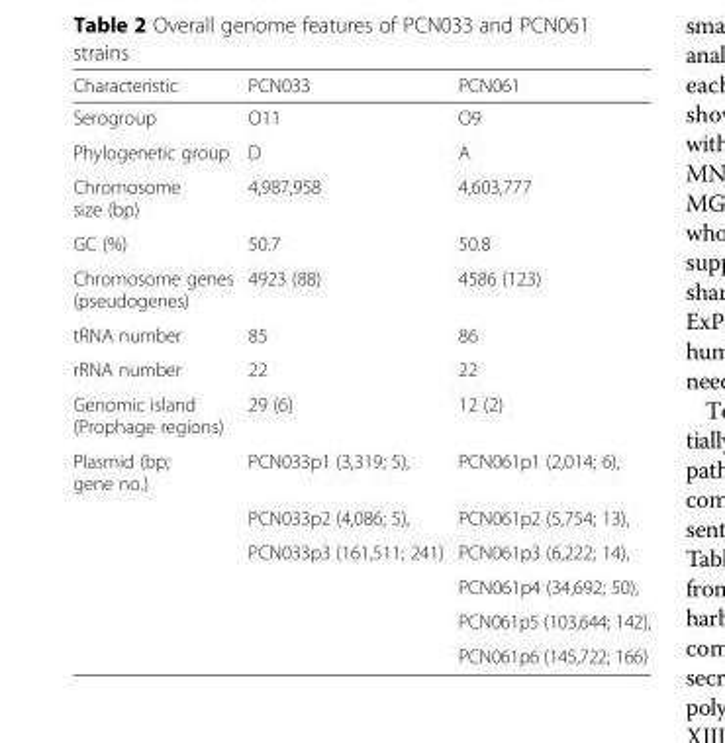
<table><thead><tr><td>Characteristic</td><td>PCN033</td><td>PCN061</td></tr></thead><tbody><tr><td>Serogroup</td><td>O11</td><td>O9</td></tr><tr><td>Phylogenetic group</td><td>D</td><td>A</td></tr><tr><td>Chromosome size (bp)</td><td>4,987,958</td><td>4,603,777</td></tr><tr><td>GC (%)</td><td>50.7</td><td>50.8</td></tr><tr><td>Chromosome genes (pseudogenes)</td><td>4923 (88)</td><td>4586 (123)</td></tr><tr><td>tRNA number</td><td>85</td><td>86</td></tr><tr><td>rRNA number</td><td>22</td><td>22</td></tr><tr><td>Genomic island (Prophage regions)</td><td>29 (6)</td><td>12 (2)</td></tr><tr><td rowspan="6">Plasmid (bp; gene no.)</td><td>PCN033p1 (3,319; 5),</td><td>PCN061p1 (2,014; 6),</td></tr><tr><td>PCN033p2 (4,086; 5),</td><td>PCN061p2 (5,754; 13),</td></tr><tr><td>PCN033p3 (161,511; 241)</td><td>PCN061p3 (6,222; 14),</td></tr><tr><td></td><td>PCN061p4 (34,692; 50),</td></tr><tr><td></td><td>PCN061p5 (103,644; 142),</td></tr><tr><td></td><td>PCN061p6 (145,722; 166)</td></tr></tbody></table>